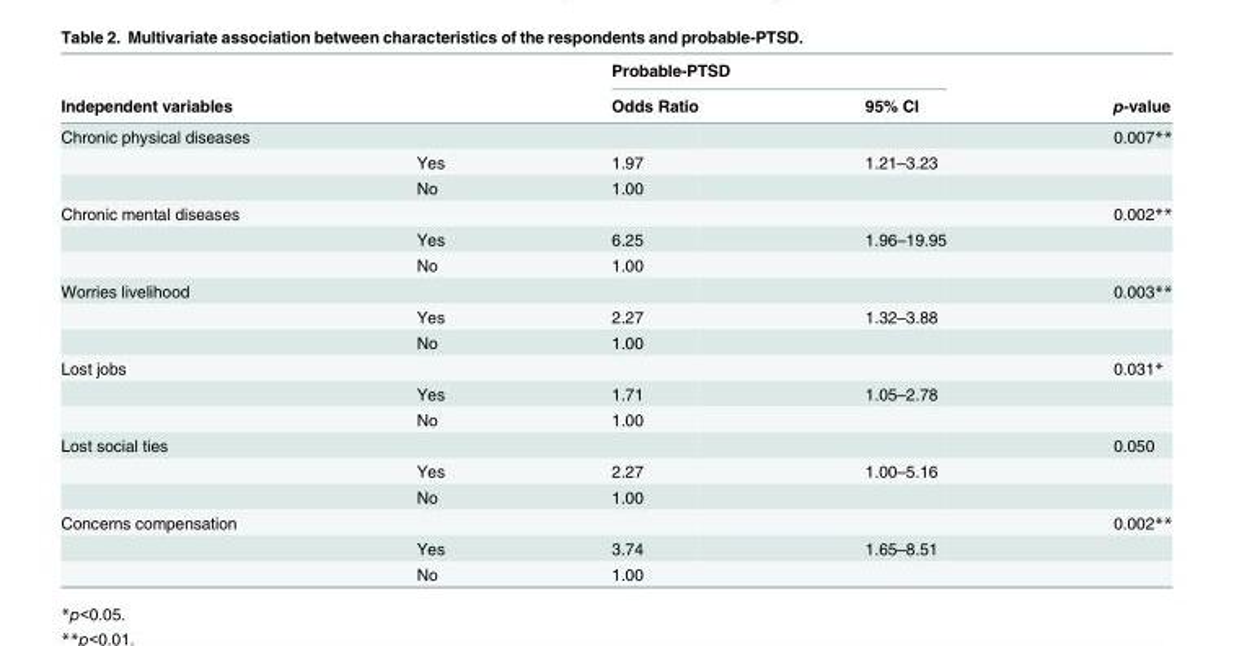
<table><thead><tr><td rowspan="2">Independent variables</td><td rowspan="2"></td><td colspan="2">Probable-PTSD</td><td rowspan="2">p-value</td></tr><tr><td>Odds Ratio</td><td>95% CI</td></tr></thead><tbody><tr><td rowspan="3">Chronic physical diseases</td><td></td><td></td><td></td><td>0.007**</td></tr><tr><td>Yes</td><td>1.97</td><td>1.21–3.23</td><td></td></tr><tr><td>No</td><td>1.00</td><td></td><td></td></tr><tr><td rowspan="3">Chronic mental diseases</td><td></td><td></td><td></td><td>0.002**</td></tr><tr><td>Yes</td><td>6.25</td><td>1.96–19.95</td><td></td></tr><tr><td>No</td><td>1.00</td><td></td><td></td></tr><tr><td rowspan="3">Worries livelihood</td><td></td><td></td><td></td><td>0.003**</td></tr><tr><td>Yes</td><td>2.27</td><td>1.32–3.88</td><td></td></tr><tr><td>No</td><td>1.00</td><td></td><td></td></tr><tr><td rowspan="3">Lost jobs</td><td></td><td></td><td></td><td>0.031*</td></tr><tr><td>Yes</td><td>1.71</td><td>1.05–2.78</td><td></td></tr><tr><td>No</td><td>1.00</td><td></td><td></td></tr><tr><td rowspan="3">Lost social ties</td><td></td><td></td><td></td><td>0.050</td></tr><tr><td>Yes</td><td>2.27</td><td>1.00–5.16</td><td></td></tr><tr><td>No</td><td>1.00</td><td></td><td></td></tr><tr><td rowspan="3">Concerns compensation</td><td></td><td></td><td></td><td>0.002**</td></tr><tr><td>Yes</td><td>3.74</td><td>1.65–8.51</td><td></td></tr><tr><td>No</td><td>1.00</td><td></td><td></td></tr></tbody></table>